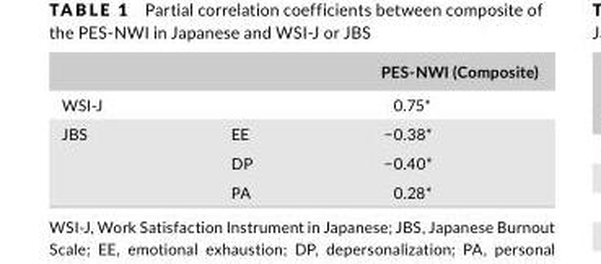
<table><thead><tr><td></td><td></td><td>PES- NWI (Composite)</td></tr></thead><tbody><tr><td>WSI-J</td><td></td><td>0.75*</td></tr><tr><td rowspan="3">JBS</td><td>EE</td><td>−0.38*</td></tr><tr><td>DP</td><td>−0.40*</td></tr><tr><td>PA</td><td>0.28*</td></tr></tbody></table>